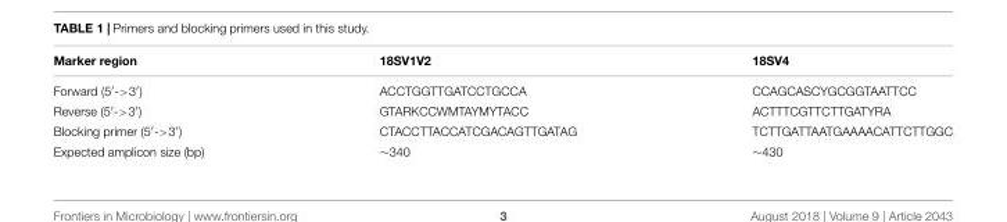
<table><thead><tr><td>Marker region</td><td>18SV1V2</td><td>18SV4</td></tr></thead><tbody><tr><td>Forward (5′-&gt;3′)</td><td>ACCTGGTTGATCCTGCCA</td><td>CCAGCASCYGCGGTAATTCC</td></tr><tr><td>Reverse (5′-&gt;3′)</td><td>GTARKCCWMTAYMYTACC</td><td>ACTTTCGTTCTTGATYRA</td></tr><tr><td>Blocking primer (5′-&gt;3′)</td><td>CTACCTTACCATCGACAGTTGATAG</td><td>TCTTGATTAATGAAAACATTCTTGGC</td></tr><tr><td>Expected amplicon size (bp)</td><td>∼340</td><td>∼430</td></tr></tbody></table>